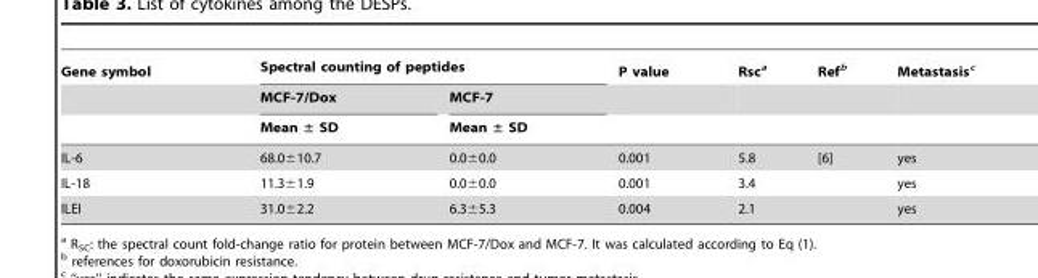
<table><thead><tr><td rowspan="3">Gene symbol</td><td colspan="2">Spectral counting of peptides</td><td rowspan="3">P value</td><td rowspan="3">Rsc<sup>a</sup></td><td rowspan="3">Ref<sup>b</sup></td><td rowspan="3">Metastasis<sup>c</sup></td></tr><tr><td rowspan="2">MCF-7/Dox Mean ± SD</td><td rowspan="2">MCF-7 Mean ± SD</td></tr><tr></tr></thead><tbody><tr><td>IL-6</td><td>68.0±10.7</td><td>0.0±0.0</td><td>0.001</td><td>5.8</td><td>[6]</td><td>yes</td></tr><tr><td>IL-18</td><td>11.3±1.9</td><td>0.0±0.0</td><td>0.001</td><td>3.4</td><td></td><td>yes</td></tr><tr><td>ILEI</td><td>31.0±2.2</td><td>6.3±5.3</td><td>0.004</td><td>2.1</td><td></td><td>yes</td></tr></tbody></table>